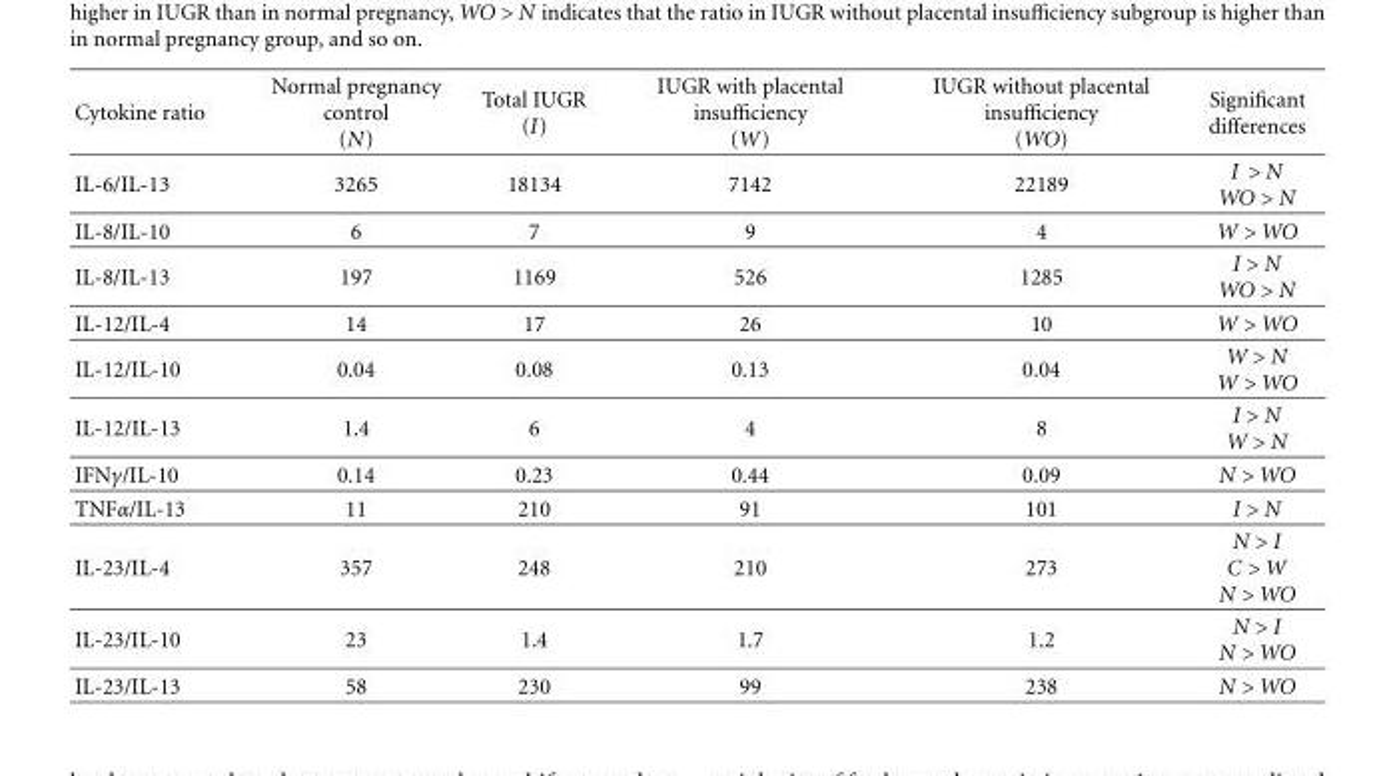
<table><thead><tr><td>Cytokine ratio</td><td>Normal pregnancy control (N)</td><td>Total IUGR (I)</td><td>IUGR with placental insufficiency (W)</td><td>IUGR without placental insufficiency (WO)</td><td>Significant differences</td></tr></thead><tbody><tr><td>IL-6/IL-13</td><td>3265</td><td>18134</td><td>7142</td><td>22189</td><td>I &gt; N WO &gt; N</td></tr><tr><td>IL-8/IL-10</td><td>6</td><td>7</td><td>9</td><td>4</td><td>W &gt; WO</td></tr><tr><td>IL-8/IL-13</td><td>197</td><td>1169</td><td>526</td><td>1285</td><td>I &gt; N WO &gt; N</td></tr><tr><td>IL-12/IL-4</td><td>14</td><td>17</td><td>26</td><td>10</td><td>W &gt; WO</td></tr><tr><td>IL-12/IL-10</td><td>0.04</td><td>0.08</td><td>0.13</td><td>0.04</td><td>W &gt; N W &gt; WO</td></tr><tr><td>IL-12/IL-13</td><td>1.4</td><td>6</td><td>4</td><td>8</td><td>I &gt; N W &gt; N</td></tr><tr><td>IFNγ/IL-10</td><td>0.14</td><td>0.23</td><td>0.44</td><td>0.09</td><td>N &gt; WO</td></tr><tr><td>TNFα/IL-13</td><td>11</td><td>210</td><td>91</td><td>101</td><td>I &gt; N</td></tr><tr><td>IL-23/IL-4</td><td>357</td><td>248</td><td>210</td><td>273</td><td>N &gt; I C &gt; W N &gt; WO</td></tr><tr><td>IL-23/IL-10</td><td>23</td><td>1.4</td><td>1.7</td><td>1.2</td><td>N &gt; I N &gt; WO</td></tr><tr><td>IL-23/IL-13</td><td>58</td><td>230</td><td>99</td><td>238</td><td>N &gt; WO</td></tr></tbody></table>